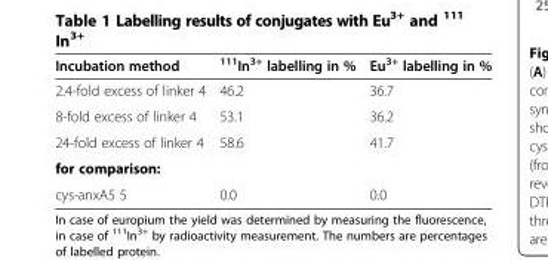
<table><thead><tr><td>Incubation method</td><td><sup>111</sup>In<sup>3+</sup> labelling in %</td><td>Eu<sup>3+</sup> labelling in %</td></tr></thead><tbody><tr><td>2.4-fold excess of linker 4</td><td>46.2</td><td>36.7</td></tr><tr><td>8-fold excess of linker 4</td><td>53.1</td><td>36.2</td></tr><tr><td>24-fold excess of linker 4</td><td>58.6</td><td>41.7</td></tr><tr><td colspan="3">for comparison:</td></tr><tr><td>cys-anxA5 5</td><td>0.0</td><td>0.0</td></tr></tbody></table>